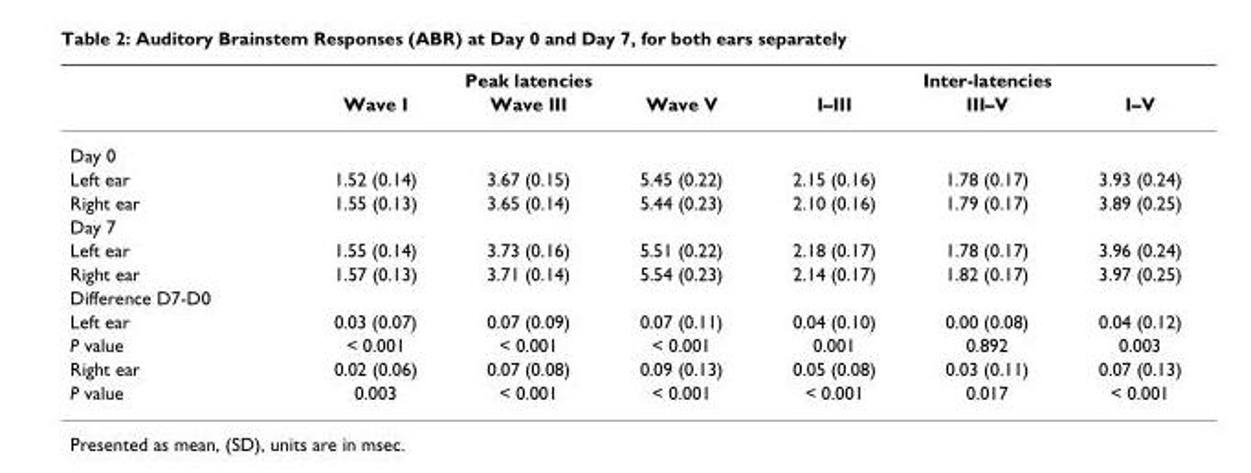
<table><thead><tr><td rowspan="2"></td><td colspan="3">Peak latencies</td><td colspan="3">Inter-latencies</td></tr><tr><td>Wave I</td><td>Wave III</td><td>Wave V</td><td>I–III</td><td>III–V</td><td>I–V</td></tr></thead><tbody><tr><td colspan="7">Day 0</td></tr><tr><td>Left ear</td><td>1.52 (0.14)</td><td>3.67 (0.15)</td><td>5.45 (0.22)</td><td>2.15 (0.16)</td><td>1.78 (0.17)</td><td>3.93 (0.24)</td></tr><tr><td>Right ear</td><td>1.55 (0.13)</td><td>3.65 (0.14)</td><td>5.44 (0.23)</td><td>2.10 (0.16)</td><td>1.79 (0.17)</td><td>3.89 (0.25)</td></tr><tr><td colspan="7">Day 7</td></tr><tr><td>Left ear</td><td>1.55 (0.14)</td><td>3.73 (0.16)</td><td>5.51 (0.22)</td><td>2.18 (0.17)</td><td>1.78 (0.17)</td><td>3.96 (0.24)</td></tr><tr><td>Right ear</td><td>1.57 (0.13)</td><td>3.71 (0.14)</td><td>5.54 (0.23)</td><td>2.14 (0.17)</td><td>1.82 (0.17)</td><td>3.97 (0.25)</td></tr><tr><td colspan="7">Difference D7-D0</td></tr><tr><td>Left ear</td><td>0.03 (0.07)</td><td>0.07 (0.09)</td><td>0.07 (0.11)</td><td>0.04 (0.10)</td><td>0.00 (0.08)</td><td>0.04 (0.12)</td></tr><tr><td>P value</td><td>&lt; 0.001</td><td>&lt; 0.001</td><td>&lt; 0.001</td><td>0.001</td><td>0.892</td><td>0.003</td></tr><tr><td>Right ear</td><td>0.02 (0.06)</td><td>0.07 (0.08)</td><td>0.09 (0.13)</td><td>0.05 (0.08)</td><td>0.03 (0.11)</td><td>0.07 (0.13)</td></tr><tr><td>P value</td><td>0.003</td><td>&lt; 0.001</td><td>&lt; 0.001</td><td>&lt; 0.001</td><td>0.017</td><td>&lt; 0.001</td></tr></tbody></table>